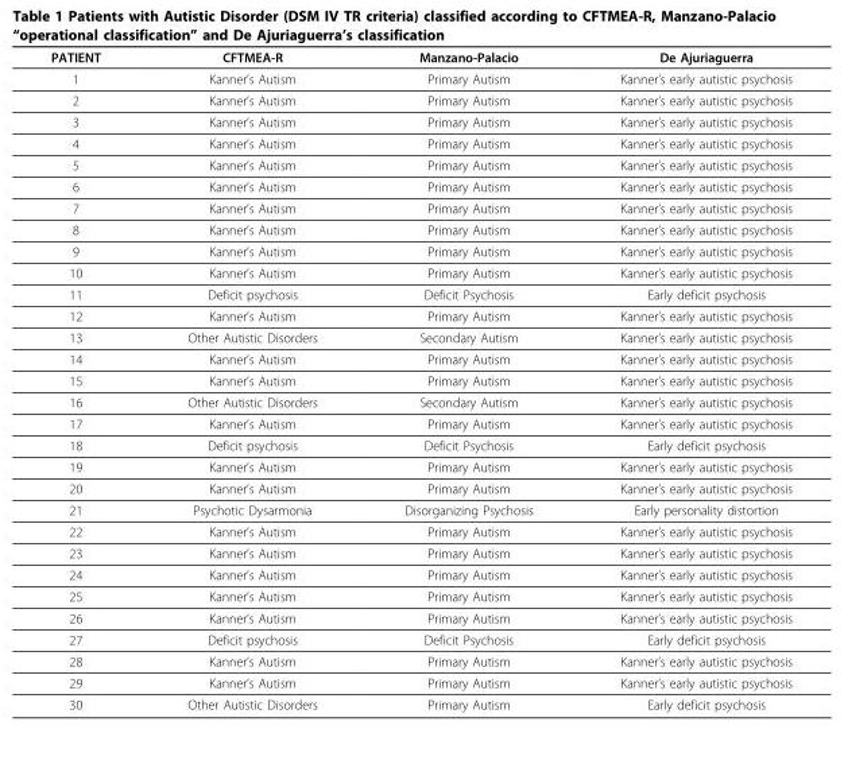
<table><thead><tr><td>PATIENT</td><td>CFTMEA-R</td><td>Manzano-Palacio</td><td>De Ajuriaguerra</td></tr></thead><tbody><tr><td>1</td><td>Kanner’s Autism</td><td>Primary Autism</td><td>Kanner’s early autistic psychosis</td></tr><tr><td>2</td><td>Kanner’s Autism</td><td>Primary Autism</td><td>Kanner’s early autistic psychosis</td></tr><tr><td>3</td><td>Kanner’s Autism</td><td>Primary Autism</td><td>Kanner’s early autistic psychosis</td></tr><tr><td>4</td><td>Kanner’s Autism</td><td>Primary Autism</td><td>Kanner’s early autistic psychosis</td></tr><tr><td>5</td><td>Kanner’s Autism</td><td>Primary Autism</td><td>Kanner’s early autistic psychosis</td></tr><tr><td>6</td><td>Kanner’s Autism</td><td>Primary Autism</td><td>Kanner’s early autistic psychosis</td></tr><tr><td>7</td><td>Kanner’s Autism</td><td>Primary Autism</td><td>Kanner’s early autistic psychosis</td></tr><tr><td>8</td><td>Kanner’s Autism</td><td>Primary Autism</td><td>Kanner’s early autistic psychosis</td></tr><tr><td>9</td><td>Kanner’s Autism</td><td>Primary Autism</td><td>Kanner’s early autistic psychosis</td></tr><tr><td>10</td><td>Kanner’s Autism</td><td>Primary Autism</td><td>Kanner’s early autistic psychosis</td></tr><tr><td>11</td><td>Deficit psychosis</td><td>Deficit Psychosis</td><td>Early deficit psychosis</td></tr><tr><td>12</td><td>Kanner’s Autism</td><td>Primary Autism</td><td>Kanner’s early autistic psychosis</td></tr><tr><td>13</td><td>Other Autistic Disorders</td><td>Secondary Autism</td><td>Kanner’s early autistic psychosis</td></tr><tr><td>14</td><td>Kanner’s Autism</td><td>Primary Autism</td><td>Kanner’s early autistic psychosis</td></tr><tr><td>15</td><td>Kanner’s Autism</td><td>Primary Autism</td><td>Kanner’s early autistic psychosis</td></tr><tr><td>16</td><td>Other Autistic Disorders</td><td>Secondary Autism</td><td>Kanner’s early autistic psychosis</td></tr><tr><td>17</td><td>Kanner’s Autism</td><td>Primary Autism</td><td>Kanner’s early autistic psychosis</td></tr><tr><td>18</td><td>Deficit psychosis</td><td>Deficit Psychosis</td><td>Early deficit psychosis</td></tr><tr><td>19</td><td>Kanner’s Autism</td><td>Primary Autism</td><td>Kanner’s early autistic psychosis</td></tr><tr><td>20</td><td>Kanner’s Autism</td><td>Primary Autism</td><td>Kanner’s early autistic psychosis</td></tr><tr><td>21</td><td>Psychotic Dysarmonia</td><td>Disorganizing Psychosis</td><td>Early personality distortion</td></tr><tr><td>22</td><td>Kanner’s Autism</td><td>Primary Autism</td><td>Kanner’s early autistic psychosis</td></tr><tr><td>23</td><td>Kanner’s Autism</td><td>Primary Autism</td><td>Kanner’s early autistic psychosis</td></tr><tr><td>24</td><td>Kanner’s Autism</td><td>Primary Autism</td><td>Kanner’s early autistic psychosis</td></tr><tr><td>25</td><td>Kanner’s Autism</td><td>Primary Autism</td><td>Kanner’s early autistic psychosis</td></tr><tr><td>26</td><td>Kanner’s Autism</td><td>Primary Autism</td><td>Kanner’s early autistic psychosis</td></tr><tr><td>27</td><td>Deficit psychosis</td><td>Deficit Psychosis</td><td>Early deficit psychosis</td></tr><tr><td>28</td><td>Kanner’s Autism</td><td>Primary Autism</td><td>Kanner’s early autistic psychosis</td></tr><tr><td>29</td><td>Kanner’s Autism</td><td>Primary Autism</td><td>Kanner’s early autistic psychosis</td></tr><tr><td>30</td><td>Other Autistic Disorders</td><td>Primary Autism</td><td>Early deficit psychosis</td></tr></tbody></table>